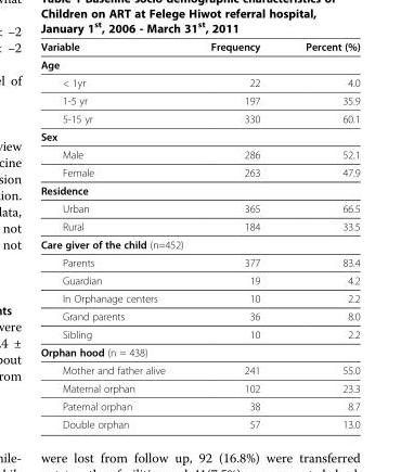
<table><thead><tr><td>Variable</td><td>Frequency</td><td>Percent (%)</td></tr></thead><tbody><tr><td colspan="3">Age</td></tr><tr><td>&lt; 1yr</td><td>22</td><td>4.0</td></tr><tr><td>1-5 yr</td><td>197</td><td>35.9</td></tr><tr><td>5-15 yr</td><td>330</td><td>60.1</td></tr><tr><td colspan="3">Sex</td></tr><tr><td>Male</td><td>286</td><td>52.1</td></tr><tr><td>Female</td><td>263</td><td>47.9</td></tr><tr><td colspan="3">Residence</td></tr><tr><td>Urban</td><td>365</td><td>66.5</td></tr><tr><td>Rural</td><td>184</td><td>33.5</td></tr><tr><td colspan="3">Care giver of the child (n=452)</td></tr><tr><td>Parents</td><td>377</td><td>83.4</td></tr><tr><td>Guardian</td><td>19</td><td>4.2</td></tr><tr><td>In Orphanage centers</td><td>10</td><td>2.2</td></tr><tr><td>Grand parents</td><td>36</td><td>8.0</td></tr><tr><td>Sibling</td><td>10</td><td>2.2</td></tr><tr><td colspan="3">Orphan hood (n = 438)</td></tr><tr><td>Mother and father alive</td><td>241</td><td>55.0</td></tr><tr><td>Maternal orphan</td><td>102</td><td>23.3</td></tr><tr><td>Paternal orphan</td><td>38</td><td>8.7</td></tr><tr><td>Double orphan</td><td>57</td><td>13.0</td></tr></tbody></table>